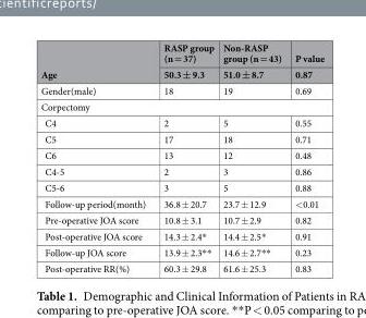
<table><thead><tr><td rowspan="2">Age</td><td rowspan="2">RASP group (n = 37) 50.3 ± 9.3</td><td rowspan="2">Non-RASP group (n = 43) 51.0 ± 8.7</td><td rowspan="2">P value 0.87</td></tr><tr></tr></thead><tbody><tr><td>Gender(male)</td><td>18</td><td>19</td><td>0.69</td></tr><tr><td colspan="4">Corpectomy</td></tr><tr><td>C4</td><td>2</td><td>5</td><td>0.55</td></tr><tr><td>C5</td><td>17</td><td>18</td><td>0.71</td></tr><tr><td>C6</td><td>13</td><td>12</td><td>0.48</td></tr><tr><td>C4-5</td><td>2</td><td>3</td><td>0.86</td></tr><tr><td>C5-6</td><td>3</td><td>5</td><td>0.88</td></tr><tr><td>Follow-up period(month)</td><td>36.8 ± 20.7</td><td>23.7 ± 12.9</td><td>&lt;0.01</td></tr><tr><td>Pre-operative JOA score</td><td>10.8 ± 3.1</td><td>10.7 ± 2.9</td><td>0.82</td></tr><tr><td>Post-operative JOA score</td><td>14.3 ± 2.4*</td><td>14.4 ± 2.5*</td><td>0.91</td></tr><tr><td>Follow-up JOA score</td><td>13.9 ± 2.3**</td><td>14.6 ± 2.7**</td><td>0.23</td></tr><tr><td>Post-operative RR(%)</td><td>60.3 ± 29.8</td><td>61.6 ± 25.3</td><td>0.83</td></tr></tbody></table>